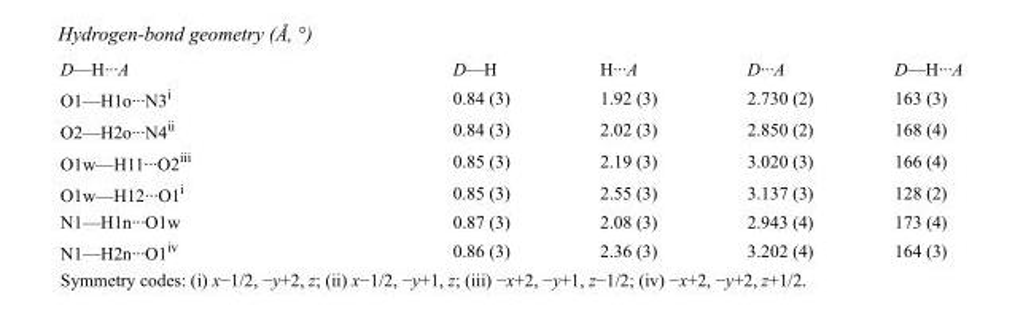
<table><tbody><tr><td>D—H···A</td><td>D—H</td><td>H···A</td><td>D···A</td><td>D—H···A</td></tr><tr><td>O1—H1o···N3<sup>i</sup></td><td>0.84 (3)</td><td>1.92 (3)</td><td>2.730 (2)</td><td>163 (3)</td></tr><tr><td>O2—H2o···N4<sup>ii</sup></td><td>0.84 (3)</td><td>2.02 (3)</td><td>2.850 (2)</td><td>168 (4)</td></tr><tr><td>O1w—H11···O2<sup>iii</sup></td><td>0.85 (3)</td><td>2.19 (3)</td><td>3.020 (3)</td><td>166 (4)</td></tr><tr><td>O1w—H12···O1<sup>i</sup></td><td>0.85 (3)</td><td>2.55 (3)</td><td>3.137 (3)</td><td>128 (2)</td></tr><tr><td>N1—H1n···O1w</td><td>0.87 (3)</td><td>2.08 (3)</td><td>2.943 (4)</td><td>173 (4)</td></tr><tr><td>N1—H2n···O1<sup>iv</sup></td><td>0.86 (3)</td><td>2.36 (3)</td><td>3.202 (4)</td><td>164 (3)</td></tr></tbody></table>